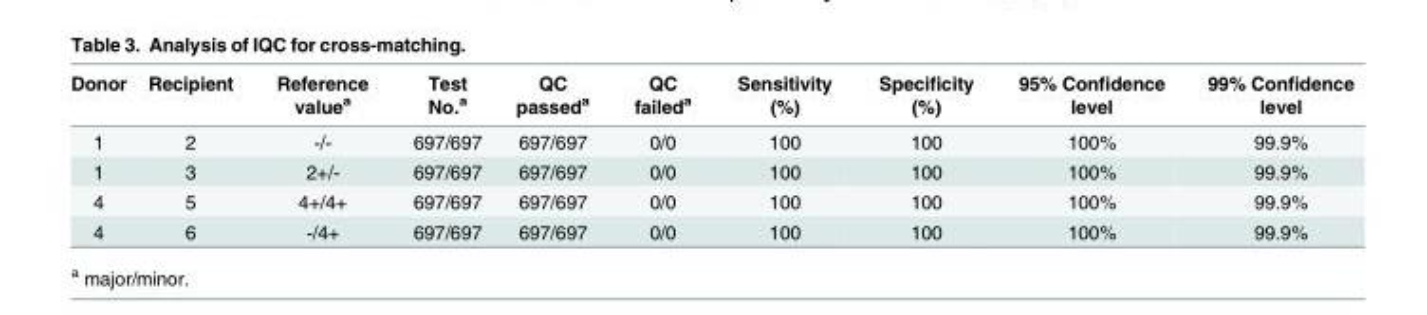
<table><thead><tr><td>Donor</td><td>Recipient</td><td>Reference value<sup>a</sup></td><td>Test No.<sup>a</sup></td><td>QC passed<sup>a</sup></td><td>QC failed<sup>a</sup></td><td>Sensitivity (%)</td><td>Specificity (%)</td><td>95% Confidence level</td><td>99% Confidence level</td></tr></thead><tbody><tr><td>1</td><td>2</td><td>-/-</td><td>697/697</td><td>697/697</td><td>0/0</td><td>100</td><td>100</td><td>100%</td><td>99.9%</td></tr><tr><td>1</td><td>3</td><td>2+/-</td><td>697/697</td><td>697/697</td><td>0/0</td><td>100</td><td>100</td><td>100%</td><td>99.9%</td></tr><tr><td>4</td><td>5</td><td>4+/4+</td><td>697/697</td><td>697/697</td><td>0/0</td><td>100</td><td>100</td><td>100%</td><td>99.9%</td></tr><tr><td>4</td><td>6</td><td>-/4+</td><td>697/697</td><td>697/697</td><td>0/0</td><td>100</td><td>100</td><td>100%</td><td>99.9%</td></tr></tbody></table>